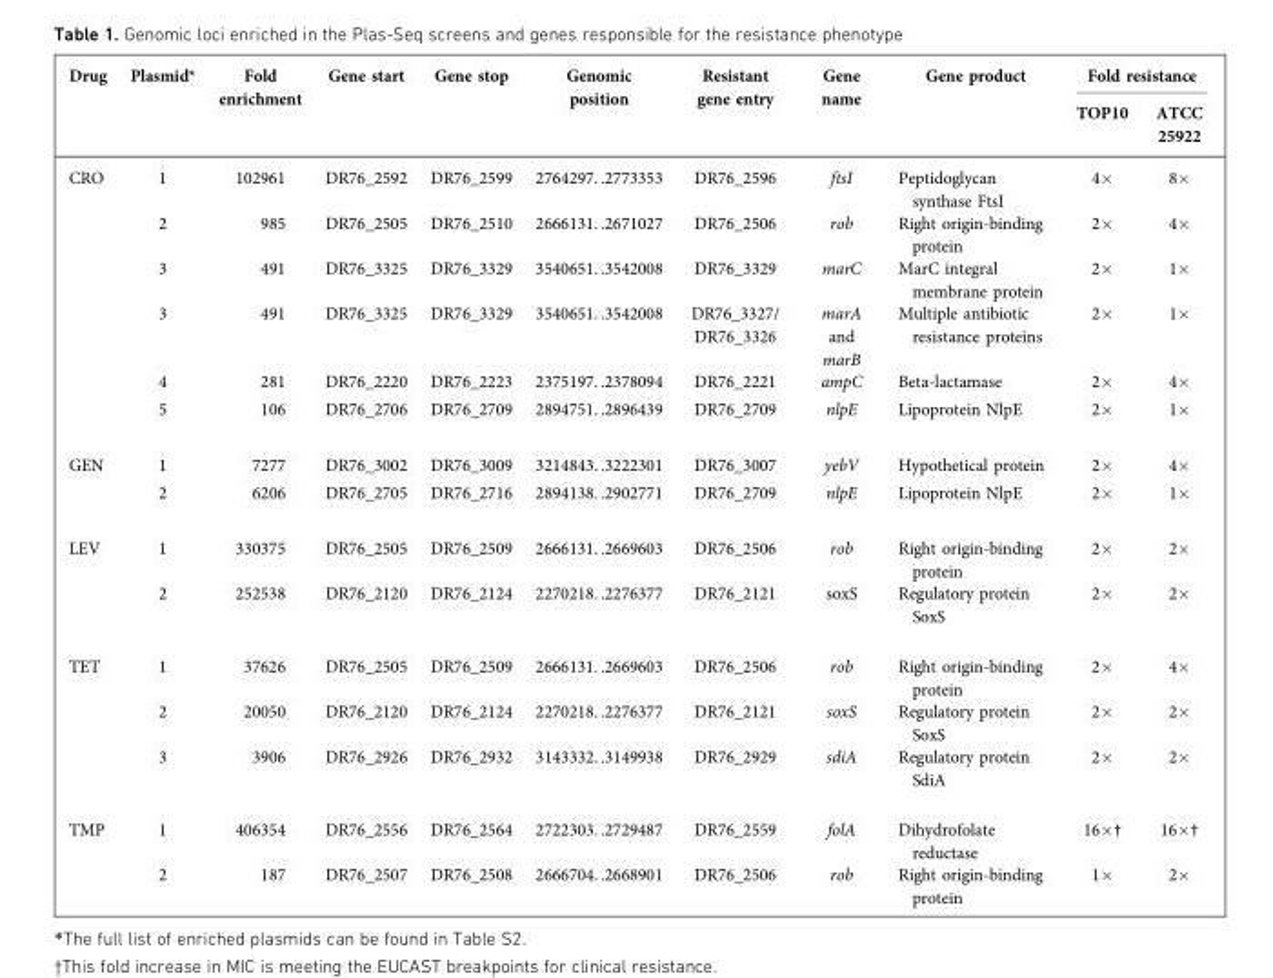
<table><thead><tr><td rowspan="2">Drug</td><td rowspan="2">Plasmid*</td><td rowspan="2">Fold enrichment</td><td rowspan="2">Gene start</td><td rowspan="2">Gene stop</td><td rowspan="2">Genomic position</td><td rowspan="2">Resistant gene entry</td><td rowspan="2">Gene name</td><td rowspan="2">Gene product</td><td colspan="2">Fold resistance</td></tr><tr><td>TOP10</td><td>ATCC 25922</td></tr></thead><tbody><tr><td rowspan="6">CRO</td><td>1</td><td>102961</td><td>DR76_2592</td><td>DR76_2599</td><td>2764297. .2773353</td><td>DR76_2596</td><td>ftsI</td><td>Peptidoglycan synthase FtsI</td><td>4×</td><td>8×</td></tr><tr><td>2</td><td>985</td><td>DR76_2505</td><td>DR76_2510</td><td>2666131. .2671027</td><td>DR76_2506</td><td>rob</td><td>Right origin-binding protein</td><td>2×</td><td>4×</td></tr><tr><td>3</td><td>491</td><td>DR76_3325</td><td>DR76_3329</td><td>3540651. .3542008</td><td>DR76_3329</td><td>marC</td><td>MarC integral membrane protein</td><td>2×</td><td>1×</td></tr><tr><td>3</td><td>491</td><td>DR76_3325</td><td>DR76_3329</td><td>3540651. .3542008</td><td>DR76_3327/ DR76_3326</td><td>marA and marB</td><td>Multiple antibiotic resistance proteins</td><td>2×</td><td>1×</td></tr><tr><td>4</td><td>281</td><td>DR76_2220</td><td>DR76_2223</td><td>2375197. .2378094</td><td>DR76_2221</td><td>ampC</td><td>Beta-lactamase</td><td>2×</td><td>4×</td></tr><tr><td>5</td><td>106</td><td>DR76_2706</td><td>DR76_2709</td><td>2894751. .2896439</td><td>DR76_2709</td><td>nlpE</td><td>Lipoprotein NlpE</td><td>2×</td><td>1×</td></tr><tr><td rowspan="2">GEN</td><td>1</td><td>7277</td><td>DR76_3002</td><td>DR76_3009</td><td>3214843. .3222301</td><td>DR76_3007</td><td>yebV</td><td>Hypothetical protein</td><td>2×</td><td>4×</td></tr><tr><td>2</td><td>6206</td><td>DR76_2705</td><td>DR76_2716</td><td>2894138. .2902771</td><td>DR76_2709</td><td>nlpE</td><td>Lipoprotein NlpE</td><td>2×</td><td>1×</td></tr><tr><td rowspan="2">LEV</td><td>1</td><td>330375</td><td>DR76_2505</td><td>DR76_2509</td><td>2666131. .2669603</td><td>DR76_2506</td><td>rob</td><td>Right origin-binding protein</td><td>2×</td><td>2×</td></tr><tr><td>2</td><td>252538</td><td>DR76_2120</td><td>DR76_2124</td><td>2270218. .2276377</td><td>DR76_2121</td><td>soxS</td><td>Regulatory protein SoxS</td><td>2×</td><td>2×</td></tr><tr><td rowspan="3">TET</td><td>1</td><td>37626</td><td>DR76_2505</td><td>DR76_2509</td><td>2666131. .2669603</td><td>DR76_2506</td><td>rob</td><td>Right origin-binding protein</td><td>2×</td><td>4×</td></tr><tr><td>2</td><td>20050</td><td>DR76_2120</td><td>DR76_2124</td><td>2270218. .2276377</td><td>DR76_2121</td><td>soxS</td><td>Regulatory protein SoxS</td><td>2×</td><td>2×</td></tr><tr><td>3</td><td>3906</td><td>DR76_2926</td><td>DR76_2932</td><td>3143332. .3149938</td><td>DR76_2929</td><td>sdiA</td><td>Regulatory protein SdiA</td><td>2×</td><td>2×</td></tr><tr><td rowspan="2">TMP</td><td>1</td><td>406354</td><td>DR76_2556</td><td>DR76_2564</td><td>2722303. .2729487</td><td>DR76_2559</td><td>folA</td><td>Dihydrofolate reductase</td><td>16×†</td><td>16×†</td></tr><tr><td>2</td><td>187</td><td>DR76_2507</td><td>DR76_2508</td><td>2666704. .2668901</td><td>DR76_2506</td><td>rob</td><td>Right origin-binding protein</td><td>1×</td><td>2×</td></tr></tbody></table>